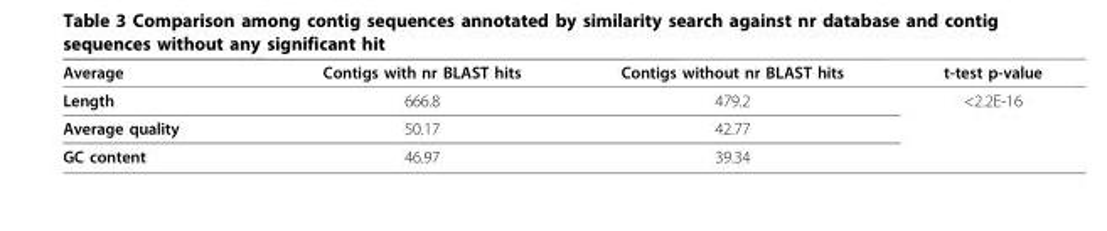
<table><thead><tr><td>Average</td><td>Contigs with nr BLAST hits</td><td>Contigs without nr BLAST hits</td><td>t-test p-value</td></tr></thead><tbody><tr><td>Length</td><td>666.8</td><td>479.2</td><td>&lt;2.2E-16</td></tr><tr><td>Average quality</td><td>50.17</td><td>42.77</td><td></td></tr><tr><td>GC content</td><td>46.97</td><td>39.34</td><td></td></tr></tbody></table>